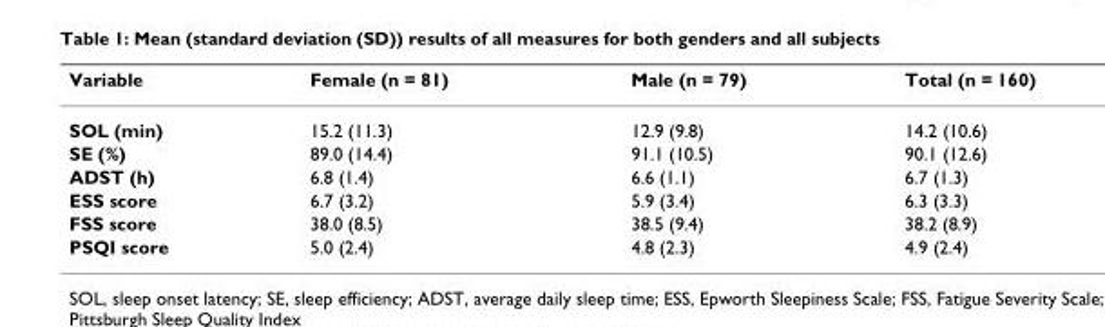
<table><thead><tr><td>Variable</td><td>Female (n = 81)</td><td>Male (n = 79)</td><td>Total (n = 160)</td></tr></thead><tbody><tr><td>SOL (min)</td><td>15.2 (11.3)</td><td>12.9 (9.8)</td><td>14.2 (10.6)</td></tr><tr><td>SE (%)</td><td>89.0 (14.4)</td><td>91.1 (10.5)</td><td>90.1 (12.6)</td></tr><tr><td>ADST (h)</td><td>6.8 (1.4)</td><td>6.6 (1.1)</td><td>6.7 (1.3)</td></tr><tr><td>ESS score</td><td>6.7 (3.2)</td><td>5.9 (3.4)</td><td>6.3 (3.3)</td></tr><tr><td>FSS score</td><td>38.0 (8.5)</td><td>38.5 (9.4)</td><td>38.2 (8.9)</td></tr><tr><td>PSQI score</td><td>5.0 (2.4)</td><td>4.8 (2.3)</td><td>4.9 (2.4)</td></tr></tbody></table>